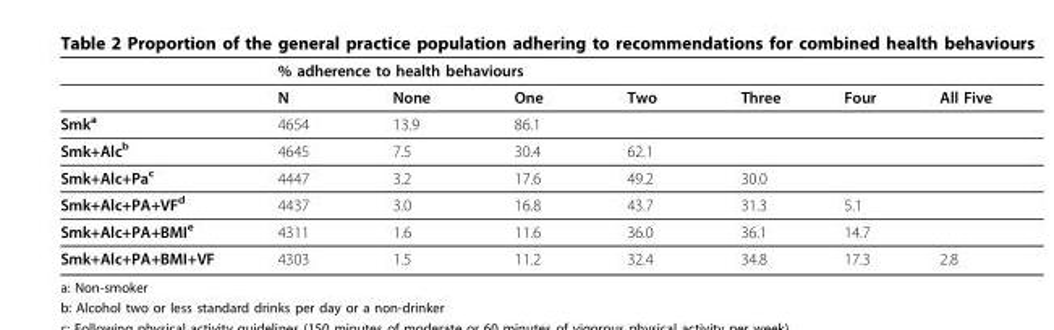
<table><thead><tr><td rowspan="2"></td><td colspan="4">% adherence to health behaviours</td><td rowspan="2">Three</td><td rowspan="2">Four</td><td rowspan="2">All Five</td></tr><tr><td>N</td><td>None</td><td>One</td><td>Two</td></tr></thead><tbody><tr><td>Smk<sup>a</sup></td><td>4654</td><td>13.9</td><td>86.1</td><td></td><td></td><td></td><td></td></tr><tr><td>Smk+Alc<sup>b</sup></td><td>4645</td><td>7.5</td><td>30.4</td><td>62.1</td><td></td><td></td><td></td></tr><tr><td>Smk+Alc+Pa<sup>c</sup></td><td>4447</td><td>3.2</td><td>17.6</td><td>49.2</td><td>30.0</td><td></td><td></td></tr><tr><td>Smk+Alc+PA+VF<sup>d</sup></td><td>4437</td><td>3.0</td><td>16.8</td><td>43.7</td><td>31.3</td><td>5.1</td><td></td></tr><tr><td>Smk+Alc+PA+BMI<sup>e</sup></td><td>4311</td><td>1.6</td><td>11.6</td><td>36.0</td><td>36.1</td><td>14.7</td><td></td></tr><tr><td>Smk+Alc+PA+BMI+VF</td><td>4303</td><td>1.5</td><td>11.2</td><td>32.4</td><td>34.8</td><td>17.3</td><td>2.8</td></tr></tbody></table>